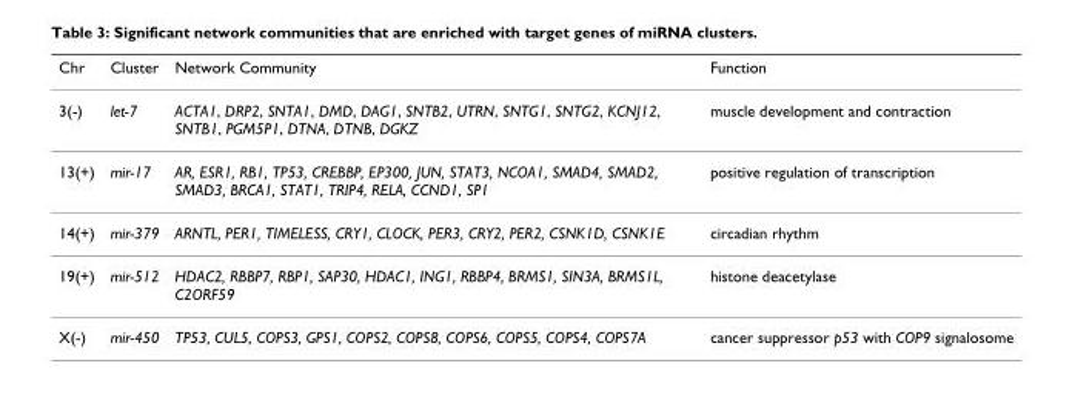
<table><thead><tr><td>Chr</td><td>Cluster</td><td>Network Community</td><td>Function</td></tr></thead><tbody><tr><td>3(-)</td><td>let-7</td><td>ACTA1, DRP2, SNTA1, DMD, DAG1, SNTB2, UTRN, SNTG1, SNTG2, KCNJ12, SNTB1, PGM5P1, DTNA, DTNB, DGKZ</td><td>muscle development and contraction</td></tr><tr><td>13(+)</td><td>mir-17</td><td>AR, ESR1, RB1, TP53, CREBBP, EP300, JUN, STAT3, NCOA1, SMAD4, SMAD2, SMAD3, BRCA1, STAT1, TRIP4, RELA, CCND1, SP1</td><td>positive regulation of transcription</td></tr><tr><td>14(+)</td><td>mir-379</td><td>ARNTL, PER1, TIMELESS, CRY1, CLOCK, PER3, CRY2, PER2, CSNK1D, CSNK1E</td><td>circadian rhythm</td></tr><tr><td>19(+)</td><td>mir-512</td><td>HDAC2, RBBP7, RBP1, SAP30, HDAC1, ING1, RBBP4, BRMS1, SIN3A, BRMS1L, C2ORF59</td><td>histone deacetylase</td></tr><tr><td>X(-)</td><td>mir-450</td><td>TP53, CUL5, COPS3, GPS1, COPS2, COPS8, COPS6, COPS5, COPS4, COPS7A</td><td>cancer suppressor p53 with COP9 signalosome</td></tr></tbody></table>